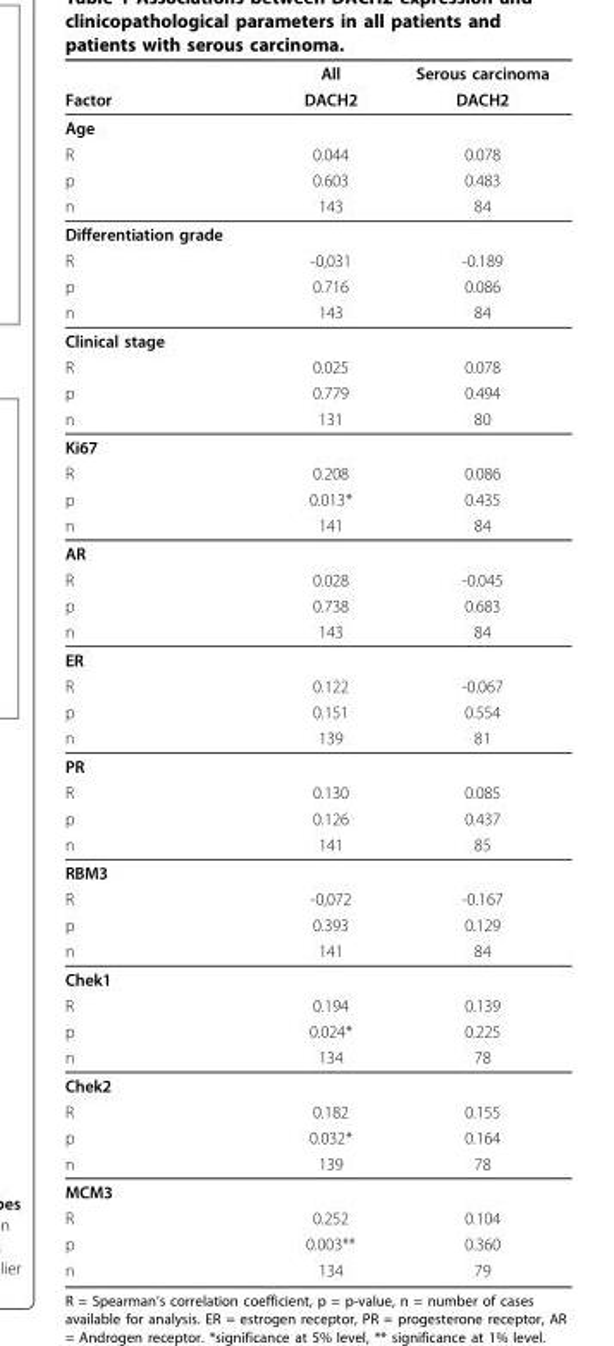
<table><thead><tr><td rowspan="2">Factor</td><td rowspan="2">All DACH2</td><td rowspan="2">Serous carcinoma DACH2</td></tr><tr></tr></thead><tbody><tr><td colspan="3">Age</td></tr><tr><td>R</td><td>0.044</td><td>0.078</td></tr><tr><td>p</td><td>0.603</td><td>0.483</td></tr><tr><td>n</td><td>143</td><td>84</td></tr><tr><td colspan="3">Differentiation grade</td></tr><tr><td>R</td><td>-0,031</td><td>-0.189</td></tr><tr><td>p</td><td>0.716</td><td>0.086</td></tr><tr><td>n</td><td>143</td><td>84</td></tr><tr><td colspan="3">Clinical stage</td></tr><tr><td>R</td><td>0.025</td><td>0.078</td></tr><tr><td>p</td><td>0.779</td><td>0.494</td></tr><tr><td>n</td><td>131</td><td>80</td></tr><tr><td colspan="3">Ki67</td></tr><tr><td>R</td><td>0.208</td><td>0.086</td></tr><tr><td>p</td><td>0.013*</td><td>0.435</td></tr><tr><td>n</td><td>141</td><td>84</td></tr><tr><td colspan="3">AR</td></tr><tr><td>R</td><td>0.028</td><td>-0.045</td></tr><tr><td>p</td><td>0.738</td><td>0.683</td></tr><tr><td>n</td><td>143</td><td>84</td></tr><tr><td colspan="3">ER</td></tr><tr><td>R</td><td>0.122</td><td>-0.067</td></tr><tr><td>p</td><td>0.151</td><td>0.554</td></tr><tr><td>n</td><td>139</td><td>81</td></tr><tr><td colspan="3">PR</td></tr><tr><td>R</td><td>0.130</td><td>0.085</td></tr><tr><td>p</td><td>0.126</td><td>0.437</td></tr><tr><td>n</td><td>141</td><td>85</td></tr><tr><td colspan="3">RBM3</td></tr><tr><td>R</td><td>-0,072</td><td>-0.167</td></tr><tr><td>p</td><td>0.393</td><td>0.129</td></tr><tr><td>n</td><td>141</td><td>84</td></tr><tr><td colspan="3">Chek1</td></tr><tr><td>R</td><td>0.194</td><td>0.139</td></tr><tr><td>p</td><td>0.024*</td><td>0.225</td></tr><tr><td>n</td><td>134</td><td>78</td></tr><tr><td colspan="3">Chek2</td></tr><tr><td>R</td><td>0.182</td><td>0.155</td></tr><tr><td>p</td><td>0.032*</td><td>0.164</td></tr><tr><td>n</td><td>139</td><td>78</td></tr><tr><td colspan="3">MCM3</td></tr><tr><td>R</td><td>0.252</td><td>0.104</td></tr><tr><td>p</td><td>0.003**</td><td>0.360</td></tr><tr><td>n</td><td>134</td><td>79</td></tr></tbody></table>